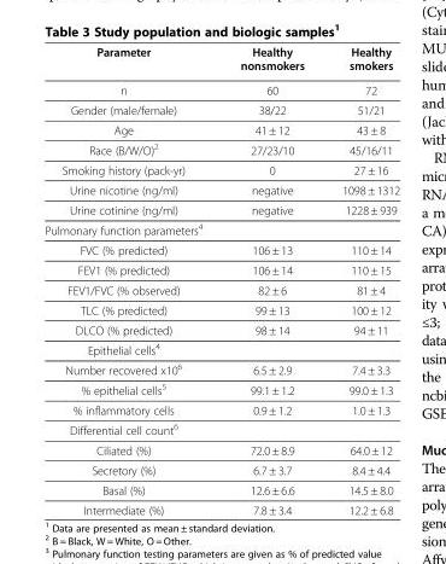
<table><thead><tr><td>Parameter</td><td>Healthy nonsmokers</td><td>Healthy smokers</td></tr></thead><tbody><tr><td>n</td><td>60</td><td>72</td></tr><tr><td>Gender (male/female)</td><td>38/22</td><td>51/21</td></tr><tr><td>Age</td><td>41 ± 12</td><td>43 ± 8</td></tr><tr><td>Race (B/W/O)<sup>2</sup></td><td>27/23/10</td><td>45/16/11</td></tr><tr><td>Smoking history (pack-yr)</td><td>0</td><td>27 ± 16</td></tr><tr><td>Urine nicotine (ng/ml)</td><td>negative</td><td>1098 ± 1312</td></tr><tr><td>Urine cotinine (ng/ml)</td><td>negative</td><td>1228 ± 939</td></tr><tr><td colspan="3">Pulmonary function parameters<sup>4</sup></td></tr><tr><td>FVC (% predicted)</td><td>106 ± 13</td><td>110 ± 14</td></tr><tr><td>FEV1 (% predicted)</td><td>106 ± 14</td><td>110 ± 15</td></tr><tr><td>FEV1/FVC (% observed)</td><td>82 ± 6</td><td>81 ± 4</td></tr><tr><td>TLC (% predicted)</td><td>99 ± 13</td><td>100 ± 12</td></tr><tr><td>DLCO (% predicted)</td><td>98 ± 14</td><td>94 ± 11</td></tr><tr><td colspan="3">Epithelial cells<sup>4</sup></td></tr><tr><td>Number recovered x10<sup>6</sup></td><td>6.5 ± 2.9</td><td>7.4 ± 3.3</td></tr><tr><td>% epithelial cells<sup>5</sup></td><td>99.1 ± 1.2</td><td>99.0 ± 1.3</td></tr><tr><td>% inflammatory cells</td><td>0.9 ± 1.2</td><td>1.0 ± 1.3</td></tr><tr><td colspan="3">Differential cell count<sup>6</sup></td></tr><tr><td>Ciliated (%)</td><td>72.0 ± 8.9</td><td>64.0 ± 12</td></tr><tr><td>Secretory (%)</td><td>6.7 ± 3.7</td><td>8.4 ± 4.4</td></tr><tr><td>Basal (%)</td><td>12.6 ± 6.6</td><td>14.5 ± 8.0</td></tr><tr><td>Intermediate (%)</td><td>7.8 ± 3.4</td><td>12.2 ± 6.8</td></tr></tbody></table>